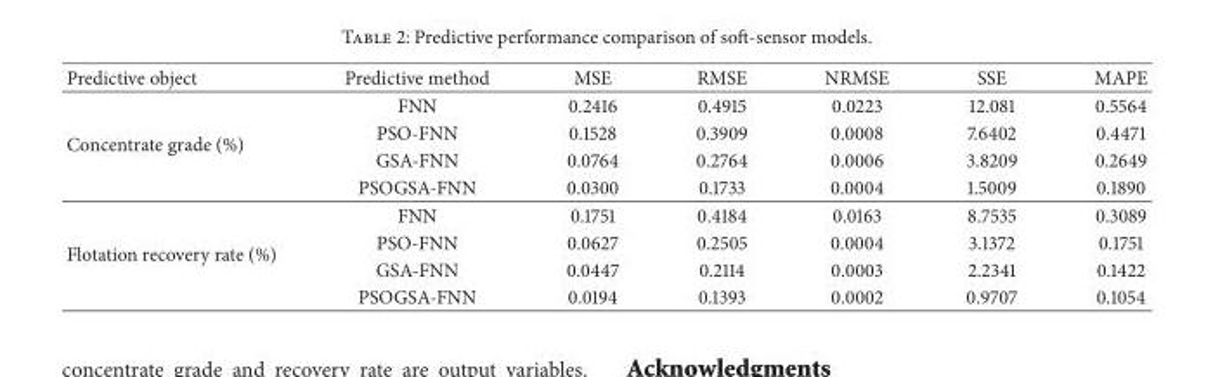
<table><thead><tr><td>Predictive object</td><td>Predictive method</td><td>MSE</td><td>RMSE</td><td>NRMSE</td><td>SSE</td><td>MAPE</td></tr></thead><tbody><tr><td rowspan="4">Concentrate grade (%)</td><td>FNN</td><td>0.2416</td><td>0.4915</td><td>0.0223</td><td>12.081</td><td>0.5564</td></tr><tr><td>PSO-FNN</td><td>0.1528</td><td>0.3909</td><td>0.0008</td><td>7.6402</td><td>0.4471</td></tr><tr><td>GSA-FNN</td><td>0.0764</td><td>0.2764</td><td>0.0006</td><td>3.8209</td><td>0.2649</td></tr><tr><td>PSOGSA-FNN</td><td>0.0300</td><td>0.1733</td><td>0.0004</td><td>1.5009</td><td>0.1890</td></tr><tr><td rowspan="4">Flotation recovery rate (%)</td><td>FNN</td><td>0.1751</td><td>0.4184</td><td>0.0163</td><td>8.7535</td><td>0.3089</td></tr><tr><td>PSO-FNN</td><td>0.0627</td><td>0.2505</td><td>0.0004</td><td>3.1372</td><td>0.1751</td></tr><tr><td>GSA-FNN</td><td>0.0447</td><td>0.2114</td><td>0.0003</td><td>2.2341</td><td>0.1422</td></tr><tr><td>PSOGSA-FNN</td><td>0.0194</td><td>0.1393</td><td>0.0002</td><td>0.9707</td><td>0.1054</td></tr></tbody></table>